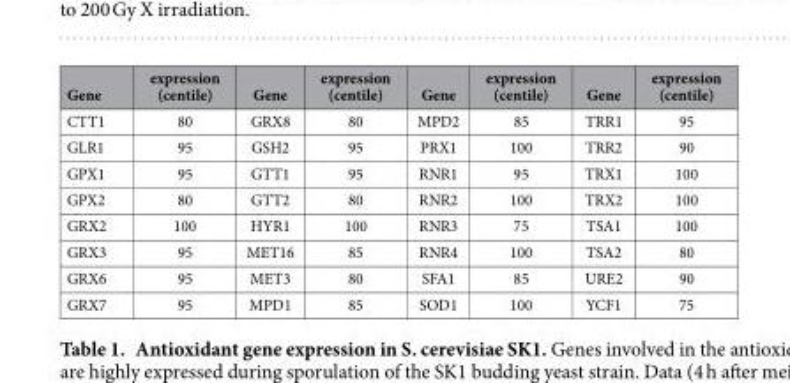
<table><thead><tr><td>Gene</td><td>expression (centile)</td><td>Gene</td><td>expression (centile)</td><td>Gene</td><td>expression (centile)</td><td>Gene</td><td>expression (centile)</td></tr></thead><tbody><tr><td>CTT1</td><td>80</td><td>GRX8</td><td>80</td><td>MPD2</td><td>85</td><td>TRR1</td><td>95</td></tr><tr><td>GLR1</td><td>95</td><td>GSH2</td><td>95</td><td>PRX1</td><td>100</td><td>TRR2</td><td>90</td></tr><tr><td>GPX1</td><td>95</td><td>GTT1</td><td>95</td><td>RNR1</td><td>95</td><td>TRX1</td><td>100</td></tr><tr><td>GPX2</td><td>80</td><td>GTT2</td><td>80</td><td>RNR2</td><td>100</td><td>TRX2</td><td>100</td></tr><tr><td>GRX2</td><td>100</td><td>HYR1</td><td>100</td><td>RNR3</td><td>75</td><td>TSA1</td><td>100</td></tr><tr><td>GRX3</td><td>95</td><td>MET16</td><td>85</td><td>RNR4</td><td>100</td><td>TSA2</td><td>80</td></tr><tr><td>GRX6</td><td>95</td><td>MET3</td><td>80</td><td>SFA1</td><td>85</td><td>URE2</td><td>90</td></tr><tr><td>GRX7</td><td>95</td><td>MPD1</td><td>85</td><td>SOD1</td><td>100</td><td>YCF1</td><td>75</td></tr></tbody></table>